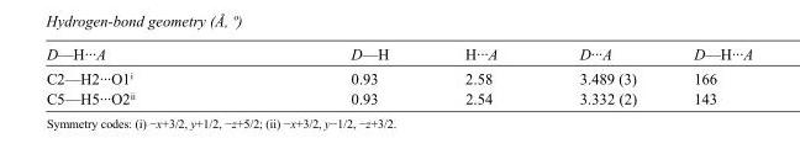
<table><tbody><tr><td>D—H···A</td><td>D—H</td><td>H···A</td><td>D···A</td><td>D—H···A</td></tr><tr><td>C2—H2···O1<sup>i</sup></td><td>0.93</td><td>2.58</td><td>3.489 (3)</td><td>166</td></tr><tr><td>C5—H5···O2<sup>ii</sup></td><td>0.93</td><td>2.54</td><td>3.332 (2)</td><td>143</td></tr></tbody></table>